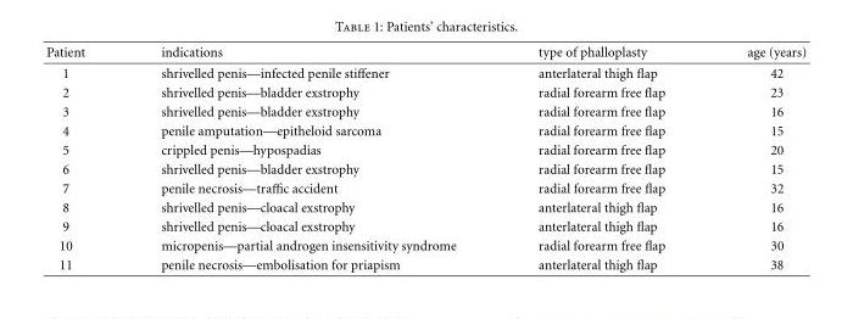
<table><thead><tr><td>Patient</td><td>indications</td><td>type of phalloplasty</td><td>age (years)</td></tr></thead><tbody><tr><td>1</td><td>shrivelled penis—infected penile stiffener</td><td>anterlateral thigh flap</td><td>42</td></tr><tr><td>2</td><td>shrivelled penis—bladder exstrophy</td><td>radial forearm free flap</td><td>23</td></tr><tr><td>3</td><td>shrivelled penis—bladder exstrophy</td><td>radial forearm free flap</td><td>16</td></tr><tr><td>4</td><td>penile amputation—epitheloid sarcoma</td><td>radial forearm free flap</td><td>15</td></tr><tr><td>5</td><td>crippled penis—hypospadias</td><td>radial forearm free flap</td><td>20</td></tr><tr><td>6</td><td>shrivelled penis—bladder exstrophy</td><td>radial forearm free flap</td><td>15</td></tr><tr><td>7</td><td>penile necrosis—traffic accident</td><td>radial forearm free flap</td><td>32</td></tr><tr><td>8</td><td>shrivelled penis—cloacal exstrophy</td><td>anterlateral thigh flap</td><td>16</td></tr><tr><td>9</td><td>shrivelled penis—cloacal exstrophy</td><td>anterlateral thigh flap</td><td>16</td></tr><tr><td>10</td><td>micropenis—partial androgen insensitivity syndrome</td><td>radial forearm free flap</td><td>30</td></tr><tr><td>11</td><td>penile necrosis—embolisation for priapism</td><td>anterlateral thigh flap</td><td>38</td></tr></tbody></table>